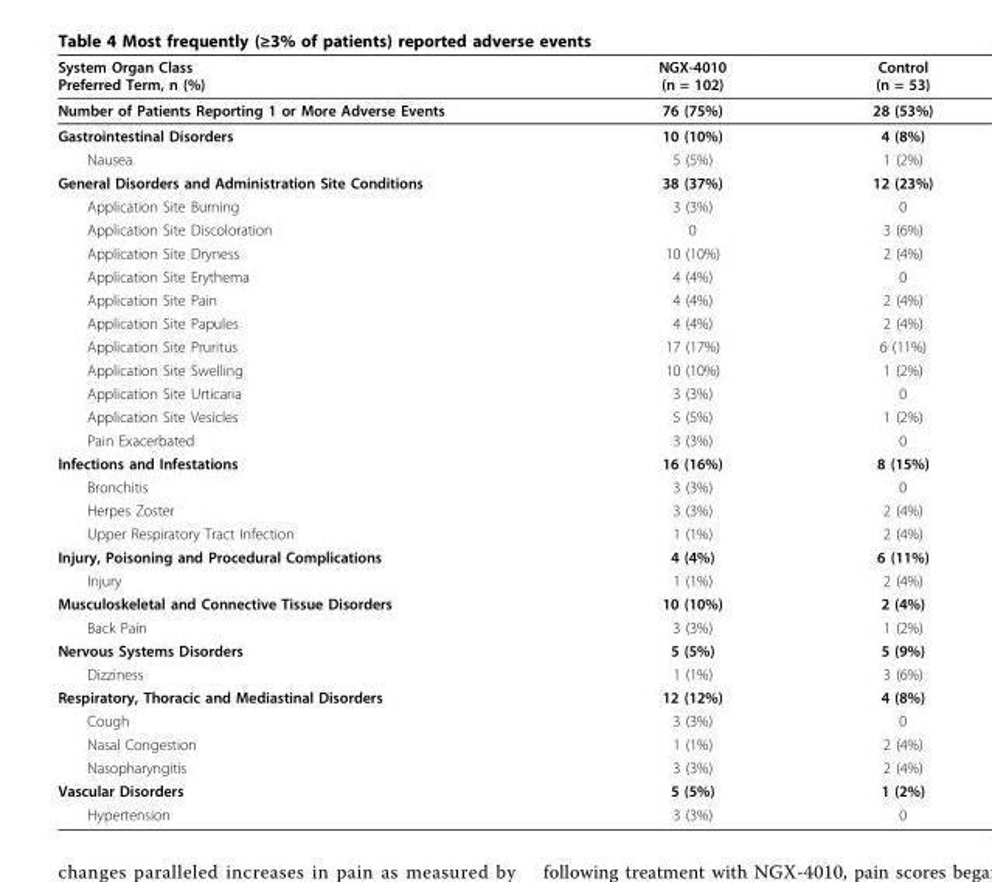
<table><thead><tr><td>System Organ Class Preferred Term, n (%)</td><td>NGX-4010 (n = 102)</td><td>Control (n = 53)</td></tr></thead><tbody><tr><td>Number of Patients Reporting 1 or More Adverse Events</td><td>76 (75%)</td><td>28 (53%)</td></tr><tr><td>Gastrointestinal Disorders</td><td>10 (10%)</td><td>4 (8%)</td></tr><tr><td>Nausea</td><td>5 (5%)</td><td>1 (2%)</td></tr><tr><td>General Disorders and Administration Site Conditions</td><td>38 (37%)</td><td>12 (23%)</td></tr><tr><td>Application Site Burning</td><td>3 (3%)</td><td>0</td></tr><tr><td>Application Site Discoloration</td><td>0</td><td>3 (6%)</td></tr><tr><td>Application Site Dryness</td><td>10 (10%)</td><td>2 (4%)</td></tr><tr><td>Application Site Erythema</td><td>4 (4%)</td><td>0</td></tr><tr><td>Application Site Pain</td><td>4 (4%)</td><td>2 (4%)</td></tr><tr><td>Application Site Papules</td><td>4 (4%)</td><td>2 (4%)</td></tr><tr><td>Application Site Pruritus</td><td>17 (17%)</td><td>6 (11%)</td></tr><tr><td>Application Site Swelling</td><td>10 (10%)</td><td>1 (2%)</td></tr><tr><td>Application Site Urticaria</td><td>3 (3%)</td><td>0</td></tr><tr><td>Application Site Vesicles</td><td>5 (5%)</td><td>1 (2%)</td></tr><tr><td>Pain Exacerbated</td><td>3 (3%)</td><td>0</td></tr><tr><td>Infections and Infestations</td><td>16 (16%)</td><td>8 (15%)</td></tr><tr><td>Bronchitis</td><td>3 (3%)</td><td>0</td></tr><tr><td>Herpes Zoster</td><td>3 (3%)</td><td>2 (4%)</td></tr><tr><td>Upper Respiratory Tract Infection</td><td>1 (1%)</td><td>2 (4%)</td></tr><tr><td>Injury, Poisoning and Procedural Complications</td><td>4 (4%)</td><td>6 (11%)</td></tr><tr><td>Injury</td><td>1 (1%)</td><td>2 (4%)</td></tr><tr><td>Musculoskeletal and Connective Tissue Disorders</td><td>10 (10%)</td><td>2 (4%)</td></tr><tr><td>Back Pain</td><td>3 (3%)</td><td>1 (2%)</td></tr><tr><td>Nervous Systems Disorders</td><td>5 (5%)</td><td>5 (9%)</td></tr><tr><td>Dizziness</td><td>1 (1%)</td><td>3 (6%)</td></tr><tr><td>Respiratory, Thoracic and Mediastinal Disorders</td><td>12 (12%)</td><td>4 (8%)</td></tr><tr><td>Cough</td><td>3 (3%)</td><td>0</td></tr><tr><td>Nasal Congestion</td><td>1 (1%)</td><td>2 (4%)</td></tr><tr><td>Nasopharyngitis</td><td>3 (3%)</td><td>2 (4%)</td></tr><tr><td>Vascular Disorders</td><td>5 (5%)</td><td>1 (2%)</td></tr><tr><td>Hypertension</td><td>3 (3%)</td><td>0</td></tr></tbody></table>